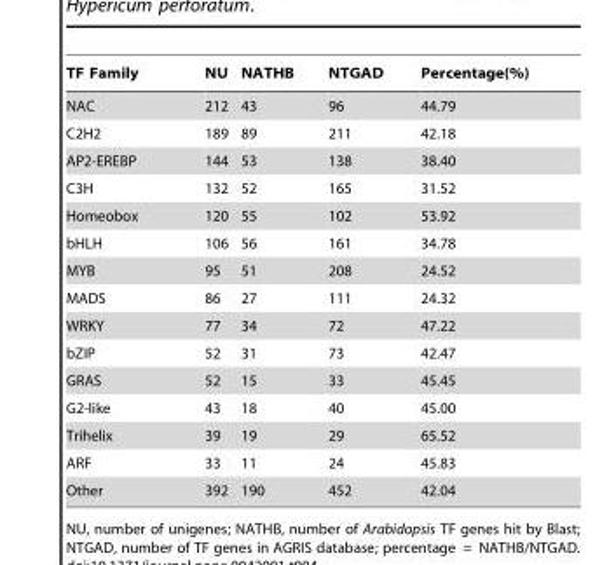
<table><thead><tr><td>TF Family</td><td>NU</td><td>NATHB</td><td>NTGAD</td><td>Percentage(%)</td></tr></thead><tbody><tr><td>NAC</td><td>212</td><td>43</td><td>96</td><td>44.79</td></tr><tr><td>C2H2</td><td>189</td><td>89</td><td>211</td><td>42.18</td></tr><tr><td>AP2-EREBP</td><td>144</td><td>53</td><td>138</td><td>38.40</td></tr><tr><td>C3H</td><td>132</td><td>52</td><td>165</td><td>31.52</td></tr><tr><td>Homeobox</td><td>120</td><td>55</td><td>102</td><td>53.92</td></tr><tr><td>bHLH</td><td>106</td><td>56</td><td>161</td><td>34.78</td></tr><tr><td>MYB</td><td>95</td><td>51</td><td>208</td><td>24.52</td></tr><tr><td>MADS</td><td>86</td><td>27</td><td>111</td><td>24.32</td></tr><tr><td>WRKY</td><td>77</td><td>34</td><td>72</td><td>47.22</td></tr><tr><td>bZIP</td><td>52</td><td>31</td><td>73</td><td>42.47</td></tr><tr><td>GRAS</td><td>52</td><td>15</td><td>33</td><td>45.45</td></tr><tr><td>G2-like</td><td>43</td><td>18</td><td>40</td><td>45.00</td></tr><tr><td>Trihelix</td><td>39</td><td>19</td><td>29</td><td>65.52</td></tr><tr><td>ARF</td><td>33</td><td>11</td><td>24</td><td>45.83</td></tr><tr><td>Other</td><td>392</td><td>190</td><td>452</td><td>42.04</td></tr></tbody></table>